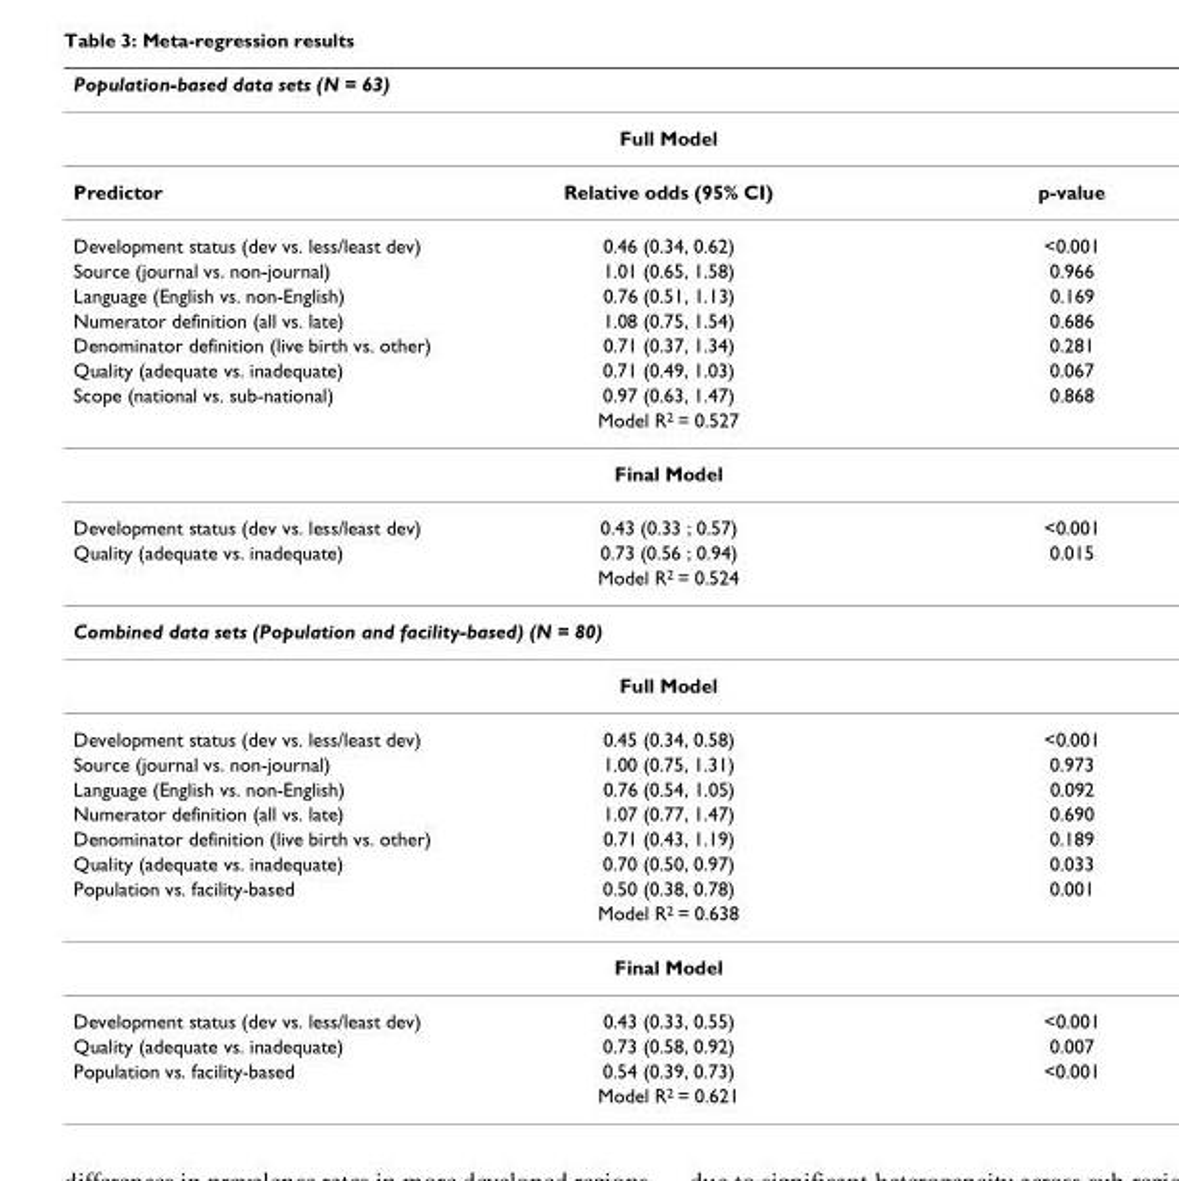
<table><thead><tr><td rowspan="2" colspan="3">Population-based data sets (N = 63) Full Model</td></tr><tr></tr><tr><td>Predictor</td><td>Relative odds (95% CI)</td><td>p-value</td></tr></thead><tbody><tr><td>Development status (dev vs. less/least dev)</td><td>0.46 (0.34, 0.62)</td><td>&lt;0.001</td></tr><tr><td>Source (journal vs. non-journal)</td><td>1.01 (0.65, 1.58)</td><td>0.966</td></tr><tr><td>Language (English vs. non-English)</td><td>0.76 (0.51, 1.13)</td><td>0.169</td></tr><tr><td>Numerator definition (all vs. late)</td><td>1.08 (0.75, 1.54)</td><td>0.686</td></tr><tr><td>Denominator definition (live birth vs. other)</td><td>0.71 (0.37, 1.34)</td><td>0.281</td></tr><tr><td>Quality (adequate vs. inadequate)</td><td>0.71 (0.49, 1.03)</td><td>0.067</td></tr><tr><td>Scope (national vs. sub-national)</td><td>0.97 (0.63, 1.47)</td><td>0.868</td></tr><tr><td colspan="3">Model R<sup>2</sup> = 0.527</td></tr><tr><td colspan="3">Final Model</td></tr><tr><td>Development status (dev vs. less/least dev)</td><td>0.43 (0.33 ; 0.57)</td><td>&lt;0.001</td></tr><tr><td>Quality (adequate vs. inadequate)</td><td>0.73 (0.56 ; 0.94)</td><td>0.015</td></tr><tr><td colspan="3">Model R<sup>2</sup> = 0.524</td></tr><tr><td colspan="3">Combined data sets (Population and facility-based) (N = 80)</td></tr><tr><td colspan="3">Full Model</td></tr><tr><td>Development status (dev vs. less/least dev)</td><td>0.45 (0.34, 0.58)</td><td>&lt;0.001</td></tr><tr><td>Source (journal vs. non-journal)</td><td>1.00 (0.75, 1.31)</td><td>0.973</td></tr><tr><td>Language (English vs. non-English)</td><td>0.76 (0.54, 1.05)</td><td>0.092</td></tr><tr><td>Numerator definition (all vs. late)</td><td>1.07 (0.77, 1.47)</td><td>0.690</td></tr><tr><td>Denominator definition (live birth vs. other)</td><td>0.71 (0.43, 1.19)</td><td>0.189</td></tr><tr><td>Quality (adequate vs. inadequate)</td><td>0.70 (0.50, 0.97)</td><td>0.033</td></tr><tr><td>Population vs. facility-based</td><td>0.50 (0.38, 0.78)</td><td>0.001</td></tr><tr><td colspan="3">Model R<sup>2</sup> = 0.638</td></tr><tr><td colspan="3">Final Model</td></tr><tr><td>Development status (dev vs. less/least dev)</td><td>0.43 (0.33, 0.55)</td><td>&lt;0.001</td></tr><tr><td>Quality (adequate vs. inadequate)</td><td>0.73 (0.58, 0.92)</td><td>0.007</td></tr><tr><td>Population vs. facility-based</td><td>0.54 (0.39, 0.73)</td><td>&lt;0.001</td></tr><tr><td colspan="3">Model R<sup>2</sup> = 0.621</td></tr></tbody></table>